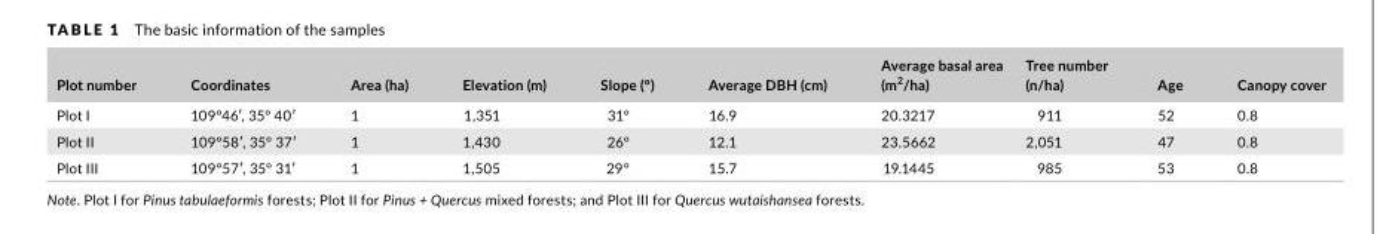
<table><thead><tr><td>Plot number</td><td>Coordinates</td><td>Area (ha)</td><td>Elevation (m)</td><td>Slope (°)</td><td>Average DBH (cm)</td><td>Average basal area (m<sup>2</sup>/ha)</td><td>Tree number (n/ha)</td><td>Age</td><td>Canopy cover</td></tr></thead><tbody><tr><td>Plot I</td><td>109°46′, 35° 40′</td><td>1</td><td>1,351</td><td>31°</td><td>16.9</td><td>20.3217</td><td>911</td><td>52</td><td>0.8</td></tr><tr><td>Plot II</td><td>109°58′, 35° 37′</td><td>1</td><td>1,430</td><td>26°</td><td>12.1</td><td>23.5662</td><td>2,051</td><td>47</td><td>0.8</td></tr><tr><td>Plot III</td><td>109°57′, 35° 31′</td><td>1</td><td>1,505</td><td>29°</td><td>15.7</td><td>19.1445</td><td>985</td><td>53</td><td>0.8</td></tr></tbody></table>